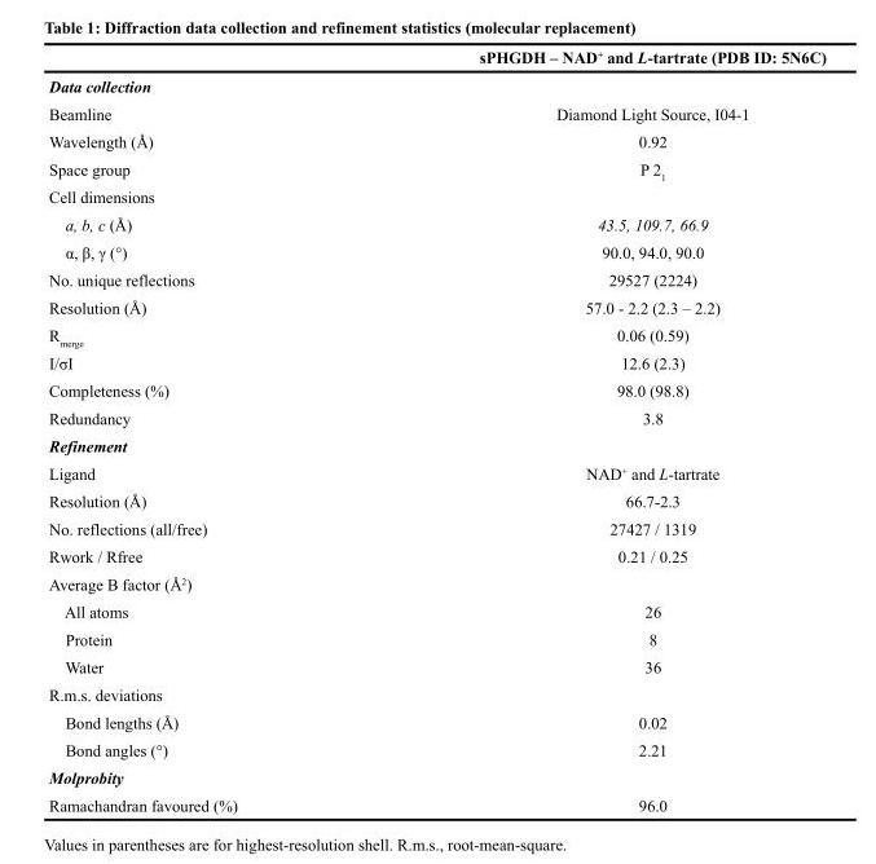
<table><thead><tr><td></td><td>sPHGDH – NAD<sup>+</sup> and L-tartrate (PDB ID: 5N6C)</td></tr></thead><tbody><tr><td colspan="2">Data collection</td></tr><tr><td>Beamline</td><td>Diamond Light Source, I04-1</td></tr><tr><td>Wavelength (Å)</td><td>0.92</td></tr><tr><td>Space group</td><td>P 2<sub>1</sub></td></tr><tr><td colspan="2">Cell dimensions</td></tr><tr><td>a, b, c (Å)</td><td>43.5, 109.7, 66.9</td></tr><tr><td>α, β, γ (°)</td><td>90.0, 94.0, 90.0</td></tr><tr><td>No. unique reflections</td><td>29527 (2224)</td></tr><tr><td>Resolution (Å)</td><td>57.0 - 2.2 (2.3 – 2.2)</td></tr><tr><td>R<sub>merge</sub></td><td>0.06 (0.59)</td></tr><tr><td>I/σI</td><td>12.6 (2.3)</td></tr><tr><td>Completeness (%)</td><td>98.0 (98.8)</td></tr><tr><td>Redundancy</td><td>3.8</td></tr><tr><td colspan="2">Refinement</td></tr><tr><td>Ligand</td><td>NAD<sup>+</sup> and L-tartrate</td></tr><tr><td>Resolution (Å)</td><td>66.7-2.3</td></tr><tr><td>No. reflections (all/free)</td><td>27427 / 1319</td></tr><tr><td>Rwork / Rfree</td><td>0.21 / 0.25</td></tr><tr><td colspan="2">Average B factor (Å<sup>2</sup>)</td></tr><tr><td>All atoms</td><td>26</td></tr><tr><td>Protein</td><td>8</td></tr><tr><td>Water</td><td>36</td></tr><tr><td colspan="2">R.m.s. deviations</td></tr><tr><td>Bond lengths (Å)</td><td>0.02</td></tr><tr><td>Bond angles (°)</td><td>2.21</td></tr><tr><td colspan="2">Molprobity</td></tr><tr><td>Ramachandran favoured (%)</td><td>96.0</td></tr></tbody></table>